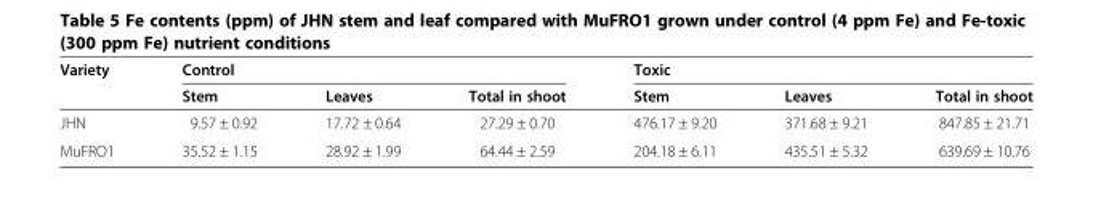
<table><thead><tr><td rowspan="2">Variety</td><td colspan="3">Control</td><td colspan="3">Toxic</td></tr><tr><td>Stem</td><td>Leaves</td><td>Total in shoot</td><td>Stem</td><td>Leaves</td><td>Total in shoot</td></tr></thead><tbody><tr><td>JHN</td><td>9.57 ± 0.92</td><td>17.72 ± 0.64</td><td>27.29 ± 0.70</td><td>476.17 ± 9.20</td><td>371.68 ± 9.21</td><td>847.85 ± 21.71</td></tr><tr><td>MuFRO1</td><td>35.52 ± 1.15</td><td>28.92 ± 1.99</td><td>64.44 ± 2.59</td><td>204.18 ± 6.11</td><td>435.51 ± 5.32</td><td>639.69 ± 10.76</td></tr></tbody></table>